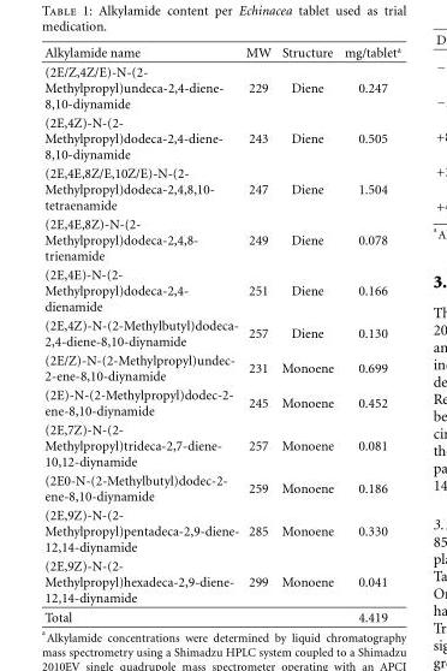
<table><thead><tr><td>Alkylamide name</td><td>MW</td><td>Structure</td><td>mg/tablet<sup>a</sup></td></tr></thead><tbody><tr><td>(2E/Z,4Z/E)-N-(2- Methylpropyl)undeca-2,4-diene- 8,10-diynamide</td><td>229</td><td>Diene</td><td>0.247</td></tr><tr><td>(2E,4Z)-N-(2- Methylpropyl)dodeca-2,4-diene- 8,10-diynamide</td><td>243</td><td>Diene</td><td>0.505</td></tr><tr><td>(2E,4E,8Z/E,10Z/E)-N-(2- Methylpropyl)dodeca-2,4,8,10- tetraenamide</td><td>247</td><td>Diene</td><td>1.504</td></tr><tr><td>(2E,4E,8Z)-N-(2- Methylpropyl)dodeca-2,4,8- trienamide</td><td>249</td><td>Diene</td><td>0.078</td></tr><tr><td>(2E,4E)-N-(2- Methylpropyl)dodeca-2,4- dienamide</td><td>251</td><td>Diene</td><td>0.166</td></tr><tr><td>(2E,4Z)-N-(2-Methylbutyl)dodeca- 2,4-diene-8,10-diynamide</td><td>257</td><td>Diene</td><td>0.130</td></tr><tr><td>(2E/Z)-N-(2-Methylpropyl)undec- 2-ene-8,10-diynamide</td><td>231</td><td>Monoene</td><td>0.699</td></tr><tr><td>(2E)-N-(2-Methylpropyl)dodec-2- ene-8,10-diynamide</td><td>245</td><td>Monoene</td><td>0.452</td></tr><tr><td>(2E,7Z)-N-(2- Methylpropyl)trideca-2,7-diene- 10,12-diynamide</td><td>257</td><td>Monoene</td><td>0.081</td></tr><tr><td>(2E0-N-(2-Methylbutyl)dodec-2- ene-8,10-diynamide</td><td>259</td><td>Monoene</td><td>0.186</td></tr><tr><td>(2E,9Z)-N-(2- Methylpropyl)pentadeca-2,9-diene- 12,14-diynamide</td><td>285</td><td>Monoene</td><td>0.330</td></tr><tr><td>(2E,9Z)-N-(2- Methylpropyl)hexadeca-2,9-diene- 12,14-diynamide</td><td>299</td><td>Monoene</td><td>0.041</td></tr><tr><td>Total</td><td></td><td></td><td>4.419</td></tr></tbody></table>